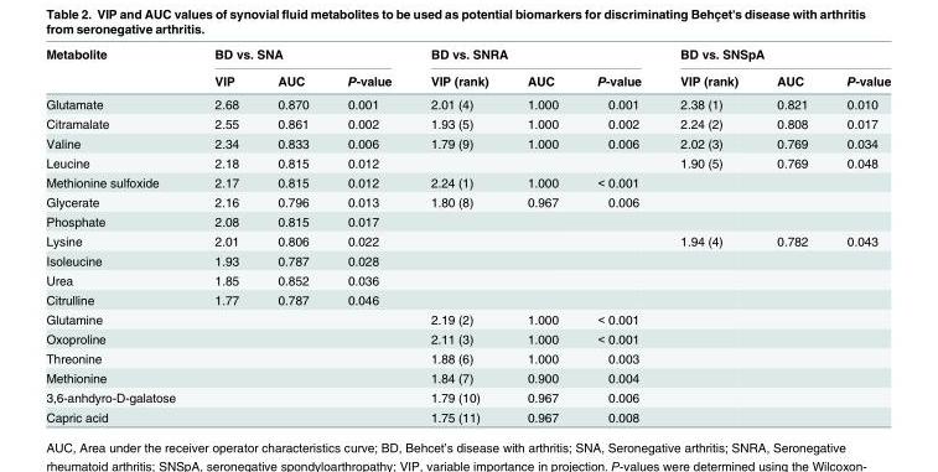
<table><thead><tr><td rowspan="2">Metabolite</td><td colspan="3">BD vs. SNA</td><td colspan="3">BD vs. SNRA</td><td colspan="3">BD vs. SNSpA</td></tr><tr><td>VIP</td><td>AUC</td><td>P-value</td><td>VIP (rank)</td><td>AUC</td><td>P-value</td><td>VIP (rank)</td><td>AUC</td><td>P-value</td></tr></thead><tbody><tr><td>Glutamate</td><td>2.68</td><td>0.870</td><td>0.001</td><td>2.01 (4)</td><td>1.000</td><td>0.001</td><td>2.38 (1)</td><td>0.821</td><td>0.010</td></tr><tr><td>Citramalate</td><td>2.55</td><td>0.861</td><td>0.002</td><td>1.93 (5)</td><td>1.000</td><td>0.002</td><td>2.24 (2)</td><td>0.808</td><td>0.017</td></tr><tr><td>Valine</td><td>2.34</td><td>0.833</td><td>0.006</td><td>1.79 (9)</td><td>1.000</td><td>0.006</td><td>2.02 (3)</td><td>0.769</td><td>0.034</td></tr><tr><td>Leucine</td><td>2.18</td><td>0.815</td><td>0.012</td><td></td><td></td><td></td><td>1.90 (5)</td><td>0.769</td><td>0.048</td></tr><tr><td>Methionine sulfoxide</td><td>2.17</td><td>0.815</td><td>0.012</td><td>2.24 (1)</td><td>1.000</td><td>&lt; 0.001</td><td></td><td></td><td></td></tr><tr><td>Glycerate</td><td>2.16</td><td>0.796</td><td>0.013</td><td>1.80 (8)</td><td>0.967</td><td>0.006</td><td></td><td></td><td></td></tr><tr><td>Phosphate</td><td>2.08</td><td>0.815</td><td>0.017</td><td></td><td></td><td></td><td></td><td></td><td></td></tr><tr><td>Lysine</td><td>2.01</td><td>0.806</td><td>0.022</td><td></td><td></td><td></td><td>1.94 (4)</td><td>0.782</td><td>0.043</td></tr><tr><td>Isoleucine</td><td>1.93</td><td>0.787</td><td>0.028</td><td></td><td></td><td></td><td></td><td></td><td></td></tr><tr><td>Urea</td><td>1.85</td><td>0.852</td><td>0.036</td><td></td><td></td><td></td><td></td><td></td><td></td></tr><tr><td>Citrulline</td><td>1.77</td><td>0.787</td><td>0.046</td><td></td><td></td><td></td><td></td><td></td><td></td></tr><tr><td>Glutamine</td><td></td><td></td><td></td><td>2.19 (2)</td><td>1.000</td><td>&lt; 0.001</td><td></td><td></td><td></td></tr><tr><td>Oxoproline</td><td></td><td></td><td></td><td>2.11 (3)</td><td>1.000</td><td>&lt; 0.001</td><td></td><td></td><td></td></tr><tr><td>Threonine</td><td></td><td></td><td></td><td>1.88 (6)</td><td>1.000</td><td>0.003</td><td></td><td></td><td></td></tr><tr><td>Methionine</td><td></td><td></td><td></td><td>1.84 (7)</td><td>0.900</td><td>0.004</td><td></td><td></td><td></td></tr><tr><td>3,6-anhdyro-D-galatose</td><td></td><td></td><td></td><td>1.79 (10)</td><td>0.967</td><td>0.006</td><td></td><td></td><td></td></tr><tr><td>Capric acid</td><td></td><td></td><td></td><td>1.75 (11)</td><td>0.967</td><td>0.008</td><td></td><td></td><td></td></tr></tbody></table>